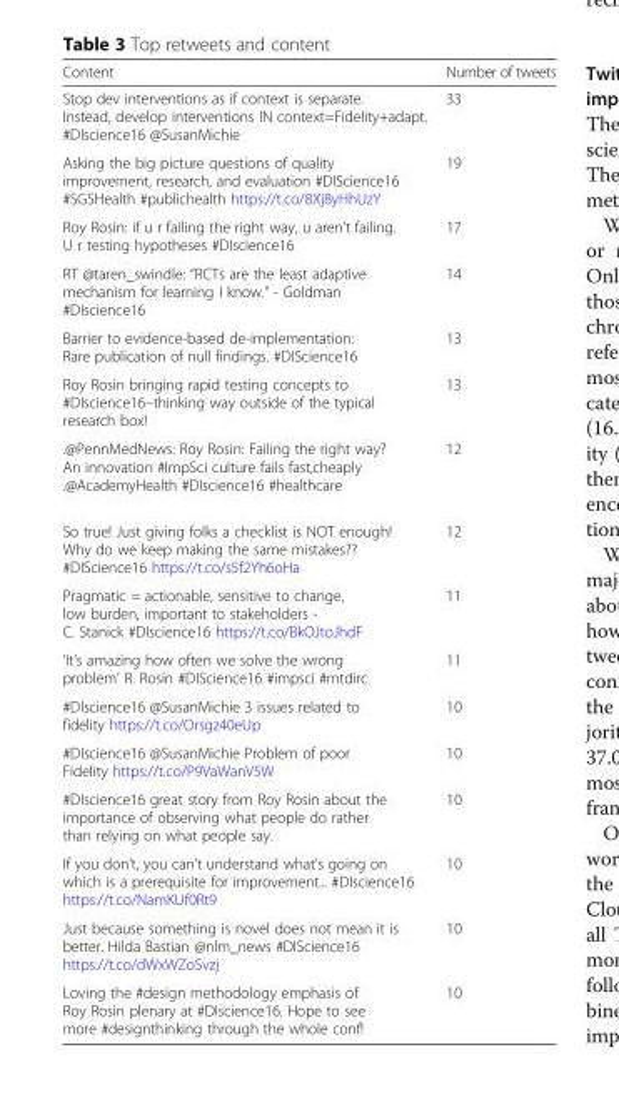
<table><thead><tr><td>Content</td><td>Number of tweets</td></tr></thead><tbody><tr><td>Stop dev interventions as if context is separate. Instead, develop interventions IN context=Fidelity+adapt. #DIscience16 @SusanMichie</td><td>33</td></tr><tr><td>Asking the big picture questions of quality improvement, research, and evaluation #DIScience16 #SGSHealth #publichealth https://t.co/8Xj8yHhUzY</td><td>19</td></tr><tr><td>Roy Rosin: if u r failing the right way, u aren’t failing. U r testing hypotheses #DIscience16</td><td>17</td></tr><tr><td>RT @taren_swindle: “RCTs are the least adaptive mechanism for learning I know.” - Goldman #DIscience16</td><td>14</td></tr><tr><td>Barrier to evidence-based de-implementation: Rare publication of null findings. #DIScience16</td><td>13</td></tr><tr><td>Roy Rosin bringing rapid testing concepts to #DIscience16–thinking way outside of the typical research box!</td><td>13</td></tr><tr><td>.@PennMedNews: Roy Rosin: Failing the right way? An innovation #ImpSci culture fails fast,cheaply .@AcademyHealth #DIscience16 #healthcare</td><td>12</td></tr><tr><td>So true! Just giving folks a checklist is NOT enough! Why do we keep making the same mistakes?? #DIScience16 https://t.co/s5f2Yh6oHa</td><td>12</td></tr><tr><td>Pragmatic = actionable, sensitive to change, low burden, important to stakeholders - C. Stanick #DIscience16 https://t.co/BkOJtoJhdF</td><td>11</td></tr><tr><td>‘It’s amazing how often we solve the wrong problem’ R. Rosin #DIScience16 #impsci #mtdirc</td><td>11</td></tr><tr><td>#DIscience16 @SusanMichie 3 issues related to fidelity https://t.co/Orsgz40eUp</td><td>10</td></tr><tr><td>#DIscience16 @SusanMichie Problem of poor Fidelity https://t.co/P9VaWanV5W</td><td>10</td></tr><tr><td>#DIscience16 great story from Roy Rosin about the importance of observing what people do rather than relying on what people say.</td><td>10</td></tr><tr><td>If you don’t, you can’t understand what’s going on which is a prerequisite for improvement... #DIscience16 https://t.co/NamKUf0Rt9</td><td>10</td></tr><tr><td>Just because something is novel does not mean it is better. Hilda Bastian @nlm_news #DIScience16 https://t.co/dWxWZoSvzj</td><td>10</td></tr><tr><td>Loving the #design methodology emphasis of Roy Rosin plenary at #DIscience16. Hope to see more #designthinking through the whole conf!</td><td>10</td></tr></tbody></table>